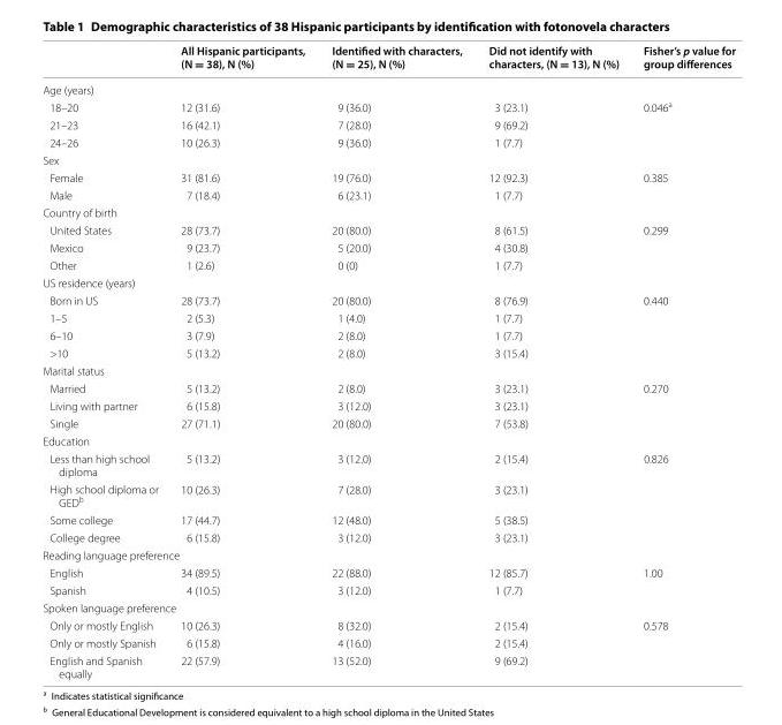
<table><thead><tr><td></td><td>All Hispanic participants, (N = 38), N (%)</td><td>Identified with characters, (N = 25), N (%)</td><td>Did not identify with characters, (N = 13), N (%)</td><td>Fisher’s p value for group differences</td></tr></thead><tbody><tr><td colspan="5">Age (years)</td></tr><tr><td>18–20</td><td>12 (31.6)</td><td>9 (36.0)</td><td>3 (23.1)</td><td>0.046<sup>a</sup></td></tr><tr><td>21–23</td><td>16 (42.1)</td><td>7 (28.0)</td><td>9 (69.2)</td><td></td></tr><tr><td>24–26</td><td>10 (26.3)</td><td>9 (36.0)</td><td>1 (7.7)</td><td></td></tr><tr><td colspan="5">Sex</td></tr><tr><td>Female</td><td>31 (81.6)</td><td>19 (76.0)</td><td>12 (92.3)</td><td>0.385</td></tr><tr><td>Male</td><td>7 (18.4)</td><td>6 (23.1)</td><td>1 (7.7)</td><td></td></tr><tr><td colspan="5">Country of birth</td></tr><tr><td>United States</td><td>28 (73.7)</td><td>20 (80.0)</td><td>8 (61.5)</td><td>0.299</td></tr><tr><td>Mexico</td><td>9 (23.7)</td><td>5 (20.0)</td><td>4 (30.8)</td><td></td></tr><tr><td>Other</td><td>1 (2.6)</td><td>0 (0)</td><td>1 (7.7)</td><td></td></tr><tr><td colspan="5">US residence (years)</td></tr><tr><td>Born in US</td><td>28 (73.7)</td><td>20 (80.0)</td><td>8 (76.9)</td><td>0.440</td></tr><tr><td>1–5</td><td>2 (5.3)</td><td>1 (4.0)</td><td>1 (7.7)</td><td></td></tr><tr><td>6–10</td><td>3 (7.9)</td><td>2 (8.0)</td><td>1 (7.7)</td><td></td></tr><tr><td>&gt;10</td><td>5 (13.2)</td><td>2 (8.0)</td><td>3 (15.4)</td><td></td></tr><tr><td colspan="5">Marital status</td></tr><tr><td>Married</td><td>5 (13.2)</td><td>2 (8.0)</td><td>3 (23.1)</td><td>0.270</td></tr><tr><td>Living with partner</td><td>6 (15.8)</td><td>3 (12.0)</td><td>3 (23.1)</td><td></td></tr><tr><td>Single</td><td>27 (71.1)</td><td>20 (80.0)</td><td>7 (53.8)</td><td></td></tr><tr><td colspan="5">Education</td></tr><tr><td>Less than high school diploma</td><td>5 (13.2)</td><td>3 (12.0)</td><td>2 (15.4)</td><td>0.826</td></tr><tr><td>High school diploma or GED<sup>b</sup></td><td>10 (26.3)</td><td>7 (28.0)</td><td>3 (23.1)</td><td></td></tr><tr><td>Some college</td><td>17 (44.7)</td><td>12 (48.0)</td><td>5 (38.5)</td><td></td></tr><tr><td>College degree</td><td>6 (15.8)</td><td>3 (12.0)</td><td>3 (23.1)</td><td></td></tr><tr><td colspan="5">Reading language preference</td></tr><tr><td>English</td><td>34 (89.5)</td><td>22 (88.0)</td><td>12 (85.7)</td><td>1.00</td></tr><tr><td>Spanish</td><td>4 (10.5)</td><td>3 (12.0)</td><td>1 (7.7)</td><td></td></tr><tr><td colspan="5">Spoken language preference</td></tr><tr><td>Only or mostly English</td><td>10 (26.3)</td><td>8 (32.0)</td><td>2 (15.4)</td><td>0.578</td></tr><tr><td>Only or mostly Spanish</td><td>6 (15.8)</td><td>4 (16.0)</td><td>2 (15.4)</td><td></td></tr><tr><td>English and Spanish equally</td><td>22 (57.9)</td><td>13 (52.0)</td><td>9 (69.2)</td><td></td></tr></tbody></table>